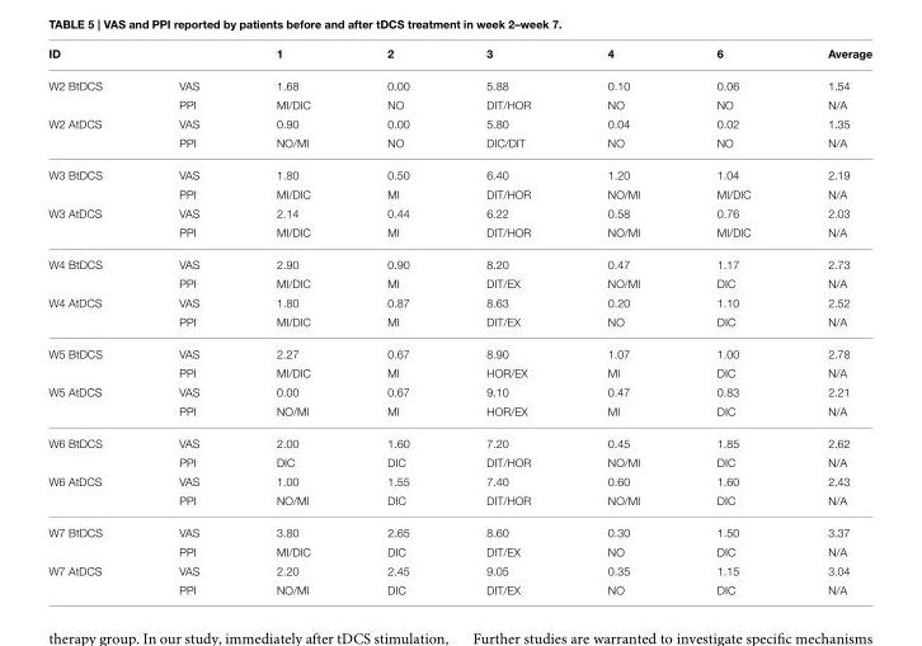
<table><thead><tr><td>ID</td><td></td><td>1</td><td>2</td><td>3</td><td>4</td><td>6</td><td>Average</td></tr></thead><tbody><tr><td rowspan="2">W2 BtDCS</td><td>VAS</td><td>1.68</td><td>0.00</td><td>5.88</td><td>0.10</td><td>0.06</td><td>1.54</td></tr><tr><td>PPI</td><td>MI/DIC</td><td>NO</td><td>DIT/HOR</td><td>NO</td><td>NO</td><td>N/A</td></tr><tr><td rowspan="2">W2 AtDCS</td><td>VAS</td><td>0.90</td><td>0.00</td><td>5.80</td><td>0.04</td><td>0.02</td><td>1.35</td></tr><tr><td>PPI</td><td>NO/MI</td><td>NO</td><td>DIC/DIT</td><td>NO</td><td>NO</td><td>N/A</td></tr><tr><td rowspan="2">W3 BtDCS</td><td>VAS</td><td>1.80</td><td>0.50</td><td>6.40</td><td>1.20</td><td>1.04</td><td>2.19</td></tr><tr><td>PPI</td><td>MI/DIC</td><td>MI</td><td>DIT/HOR</td><td>NO/MI</td><td>MI/DIC</td><td>N/A</td></tr><tr><td rowspan="2">W3 AtDCS</td><td>VAS</td><td>2.14</td><td>0.44</td><td>6.22</td><td>0.58</td><td>0.76</td><td>2.03</td></tr><tr><td>PPI</td><td>MI/DIC</td><td>MI</td><td>DIT/HOR</td><td>NO/MI</td><td>MI/DIC</td><td>N/A</td></tr><tr><td rowspan="2">W4 BtDCS</td><td>VAS</td><td>2.90</td><td>0.90</td><td>8.20</td><td>0.47</td><td>1.17</td><td>2.73</td></tr><tr><td>PPI</td><td>MI/DIC</td><td>MI</td><td>DIT/EX</td><td>NO/MI</td><td>DIC</td><td>N/A</td></tr><tr><td rowspan="2">W4 AtDCS</td><td>VAS</td><td>1.80</td><td>0.87</td><td>8.63</td><td>0.20</td><td>1.10</td><td>2.52</td></tr><tr><td>PPI</td><td>MI/DIC</td><td>MI</td><td>DIT/EX</td><td>NO</td><td>DIC</td><td>N/A</td></tr><tr><td rowspan="2">W5 BtDCS</td><td>VAS</td><td>2.27</td><td>0.67</td><td>8.90</td><td>1.07</td><td>1.00</td><td>2.78</td></tr><tr><td>PPI</td><td>MI/DIC</td><td>MI</td><td>HOR/EX</td><td>MI</td><td>DIC</td><td>N/A</td></tr><tr><td rowspan="2">W5 AtDCS</td><td>VAS</td><td>0.00</td><td>0.67</td><td>9.10</td><td>0.47</td><td>0.83</td><td>2.21</td></tr><tr><td>PPI</td><td>NO/MI</td><td>MI</td><td>HOR/EX</td><td>MI</td><td>DIC</td><td>N/A</td></tr><tr><td rowspan="2">W6 BtDCS</td><td>VAS</td><td>2.00</td><td>1.60</td><td>7.20</td><td>0.45</td><td>1.85</td><td>2.62</td></tr><tr><td>PPI</td><td>DIC</td><td>DIC</td><td>DIT/HOR</td><td>NO/MI</td><td>DIC</td><td>N/A</td></tr><tr><td rowspan="2">W6 AtDCS</td><td>VAS</td><td>1.00</td><td>1.55</td><td>7.40</td><td>0.60</td><td>1.60</td><td>2.43</td></tr><tr><td>PPI</td><td>NO/MI</td><td>DIC</td><td>DIT/HOR</td><td>NO/MI</td><td>DIC</td><td>N/A</td></tr><tr><td rowspan="2">W7 BtDCS</td><td>VAS</td><td>3.80</td><td>2.65</td><td>8.60</td><td>0.30</td><td>1.50</td><td>3.37</td></tr><tr><td>PPI</td><td>MI/DIC</td><td>DIC</td><td>DIT/EX</td><td>NO</td><td>DIC</td><td>N/A</td></tr><tr><td rowspan="2">W7 AtDCS</td><td>VAS</td><td>2.20</td><td>2.45</td><td>9.05</td><td>0.35</td><td>1.15</td><td>3.04</td></tr><tr><td>PPI</td><td>NO/MI</td><td>DIC</td><td>DIT/EX</td><td>NO</td><td>DIC</td><td>N/A</td></tr></tbody></table>